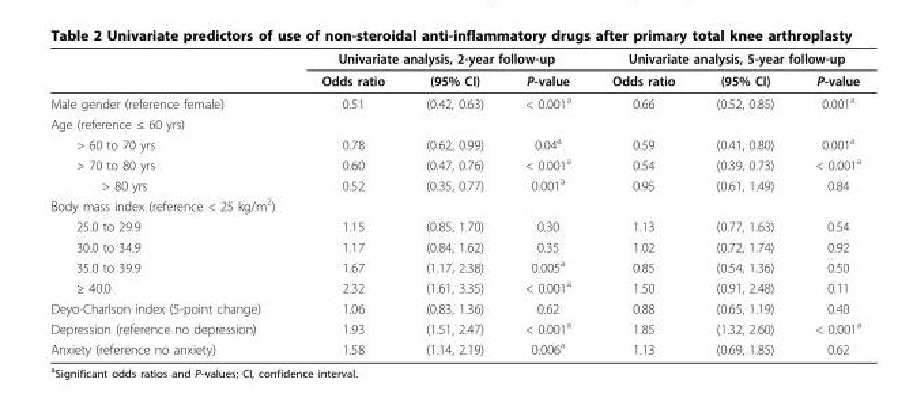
<table><thead><tr><td rowspan="2"></td><td colspan="3">Univariate analysis, 2-year follow-up</td><td colspan="3">Univariate analysis, 5-year follow-up</td></tr><tr><td>Odds ratio</td><td>(95% CI)</td><td>P-value</td><td>Odds ratio</td><td>(95% CI)</td><td>P-value</td></tr></thead><tbody><tr><td>Male gender (reference female)</td><td>0.51</td><td>(0.42, 0.63)</td><td>&lt; 0.001<sup>a</sup></td><td>0.66</td><td>(0.52, 0.85)</td><td>0.001<sup>a</sup></td></tr><tr><td colspan="7">Age (reference ≤ 60 yrs)</td></tr><tr><td>&gt; 60 to 70 yrs</td><td>0.78</td><td>(0.62, 0.99)</td><td>0.04<sup>a</sup></td><td>0.59</td><td>(0.41, 0.80)</td><td>0.001<sup>a</sup></td></tr><tr><td>&gt; 70 to 80 yrs</td><td>0.60</td><td>(0.47, 0.76)</td><td>&lt; 0.001<sup>a</sup></td><td>0.54</td><td>(0.39, 0.73)</td><td>&lt; 0.001<sup>a</sup></td></tr><tr><td>&gt; 80 yrs</td><td>0.52</td><td>(0.35, 0.77)</td><td>0.001<sup>a</sup></td><td>0.95</td><td>(0.61, 1.49)</td><td>0.84</td></tr><tr><td colspan="7">Body mass index (reference &lt; 25 kg/m<sup>2</sup>)</td></tr><tr><td>25.0 to 29.9</td><td>1.15</td><td>(0.85, 1.70)</td><td>0.30</td><td>1.13</td><td>(0.77, 1.63)</td><td>0.54</td></tr><tr><td>30.0 to 34.9</td><td>1.17</td><td>(0.84, 1.62)</td><td>0.35</td><td>1.02</td><td>(0.72, 1.74)</td><td>0.92</td></tr><tr><td>35.0 to 39.9</td><td>1.67</td><td>(1.17, 2.38)</td><td>0.005<sup>a</sup></td><td>0.85</td><td>(0.54, 1.36)</td><td>0.50</td></tr><tr><td>≥ 40.0</td><td>2.32</td><td>(1.61, 3.35)</td><td>&lt; 0.001<sup>a</sup></td><td>1.50</td><td>(0.91, 2.48)</td><td>0.11</td></tr><tr><td>Deyo-Charlson index (5-point change)</td><td>1.06</td><td>(0.83, 1.36)</td><td>0.62</td><td>0.88</td><td>(0.65, 1.19)</td><td>0.40</td></tr><tr><td>Depression (reference no depression)</td><td>1.93</td><td>(1.51, 2.47)</td><td>&lt; 0.001<sup>a</sup></td><td>1.85</td><td>(1.32, 2.60)</td><td>&lt; 0.001<sup>a</sup></td></tr><tr><td>Anxiety (reference no anxiety)</td><td>1.58</td><td>(1.14, 2.19)</td><td>0.006<sup>a</sup></td><td>1.13</td><td>(0.69, 1.85)</td><td>0.62</td></tr></tbody></table>